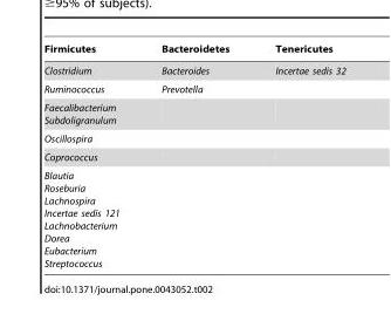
<table><thead><tr><td>Firmicutes</td><td>Bacteroidetes</td><td>Tenericutes</td></tr></thead><tbody><tr><td>Clostridium</td><td>Bacteroides</td><td>Incertae sedis 32</td></tr><tr><td>Ruminococcus</td><td>Prevotella</td><td></td></tr><tr><td colspan="3">Faecalibacterium Subdoligranulum</td></tr><tr><td colspan="3">Oscillospira</td></tr><tr><td colspan="3">Coprococcus</td></tr><tr><td>Blautia Roseburia Lachnospira Incertae sedis 121 Lachnobacterium Dorea Eubacterium Streptococcus</td><td></td><td></td></tr></tbody></table>